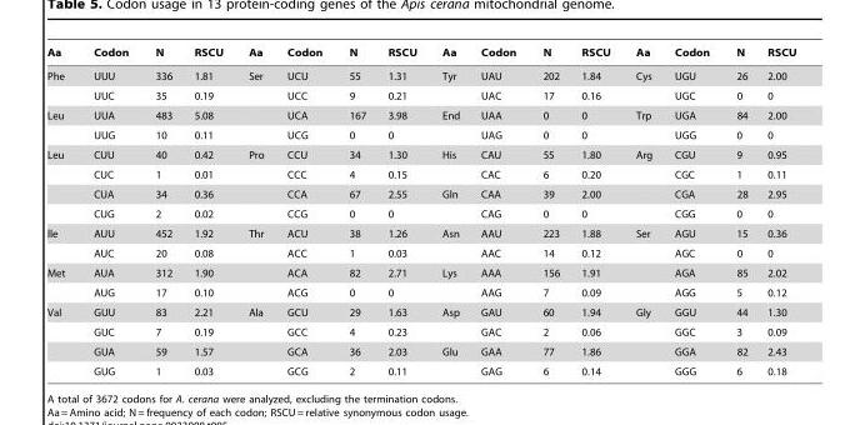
<table><thead><tr><td>Aa</td><td>Codon</td><td>N</td><td>RSCU</td><td>Aa</td><td>Codon</td><td>N</td><td>RSCU</td><td>Aa</td><td>Codon</td><td>N</td><td>RSCU</td><td>Aa</td><td>Codon</td><td>N</td><td>RSCU</td></tr></thead><tbody><tr><td rowspan="2">Phe</td><td>UUU</td><td>336</td><td>1.81</td><td>Ser</td><td>UCU</td><td>55</td><td>1.31</td><td>Tyr</td><td>UAU</td><td>202</td><td>1.84</td><td>Cys</td><td>UGU</td><td>26</td><td>2.00</td></tr><tr><td>UUC</td><td>35</td><td>0.19</td><td></td><td>UCC</td><td>9</td><td>0.21</td><td></td><td>UAC</td><td>17</td><td>0.16</td><td></td><td>UGC</td><td>0</td><td>0</td></tr><tr><td rowspan="2">Leu</td><td>UUA</td><td>483</td><td>5.08</td><td></td><td>UCA</td><td>167</td><td>3.98</td><td>End</td><td>UAA</td><td>0</td><td>0</td><td>Trp</td><td>UGA</td><td>84</td><td>2.00</td></tr><tr><td>UUG</td><td>10</td><td>0.11</td><td></td><td>UCG</td><td>0</td><td>0</td><td></td><td>UAG</td><td>0</td><td>0</td><td></td><td>UGG</td><td>0</td><td>0</td></tr><tr><td rowspan="4">Leu</td><td>CUU</td><td>40</td><td>0.42</td><td>Pro</td><td>CCU</td><td>34</td><td>1.30</td><td>His</td><td>CAU</td><td>55</td><td>1.80</td><td>Arg</td><td>CGU</td><td>9</td><td>0.95</td></tr><tr><td>CUC</td><td>1</td><td>0.01</td><td></td><td>CCC</td><td>4</td><td>0.15</td><td></td><td>CAC</td><td>6</td><td>0.20</td><td></td><td>CGC</td><td>1</td><td>0.11</td></tr><tr><td>CUA</td><td>34</td><td>0.36</td><td></td><td>CCA</td><td>67</td><td>2.55</td><td>Gln</td><td>CAA</td><td>39</td><td>2.00</td><td></td><td>CGA</td><td>28</td><td>2.95</td></tr><tr><td>CUG</td><td>2</td><td>0.02</td><td></td><td>CCG</td><td>0</td><td>0</td><td></td><td>CAG</td><td>0</td><td>0</td><td></td><td>CGG</td><td>0</td><td>0</td></tr><tr><td rowspan="2">lle</td><td>AUU</td><td>452</td><td>1.92</td><td>Thr</td><td>ACU</td><td>38</td><td>1.26</td><td>Asn</td><td>AAU</td><td>223</td><td>1.88</td><td>Ser</td><td>AGU</td><td>15</td><td>0.36</td></tr><tr><td>AUC</td><td>20</td><td>0.08</td><td></td><td>ACC</td><td>1</td><td>0.03</td><td></td><td>AAC</td><td>14</td><td>0.12</td><td></td><td>AGC</td><td>0</td><td>0</td></tr><tr><td rowspan="2">Met</td><td>AUA</td><td>312</td><td>1.90</td><td></td><td>ACA</td><td>82</td><td>2.71</td><td>Lys</td><td>AAA</td><td>156</td><td>1.91</td><td></td><td>AGA</td><td>85</td><td>2.02</td></tr><tr><td>AUG</td><td>17</td><td>0.10</td><td></td><td>ACG</td><td>0</td><td>0</td><td></td><td>AAG</td><td>7</td><td>0.09</td><td></td><td>AGG</td><td>5</td><td>0.12</td></tr><tr><td rowspan="4">Val</td><td>GUU</td><td>83</td><td>2.21</td><td>Ala</td><td>GCU</td><td>29</td><td>1.63</td><td>Asp</td><td>GAU</td><td>60</td><td>1.94</td><td>Gly</td><td>GGU</td><td>44</td><td>1.30</td></tr><tr><td>GUC</td><td>7</td><td>0.19</td><td></td><td>GCC</td><td>4</td><td>0.23</td><td></td><td>GAC</td><td>2</td><td>0.06</td><td></td><td>GGC</td><td>3</td><td>0.09</td></tr><tr><td>GUA</td><td>59</td><td>1.57</td><td></td><td>GCA</td><td>36</td><td>2.03</td><td>Glu</td><td>GAA</td><td>77</td><td>1.86</td><td></td><td>GGA</td><td>82</td><td>2.43</td></tr><tr><td>GUG</td><td>1</td><td>0.03</td><td></td><td>GCG</td><td>2</td><td>0.11</td><td></td><td>GAG</td><td>6</td><td>0.14</td><td></td><td>GGG</td><td>6</td><td>0.18</td></tr></tbody></table>